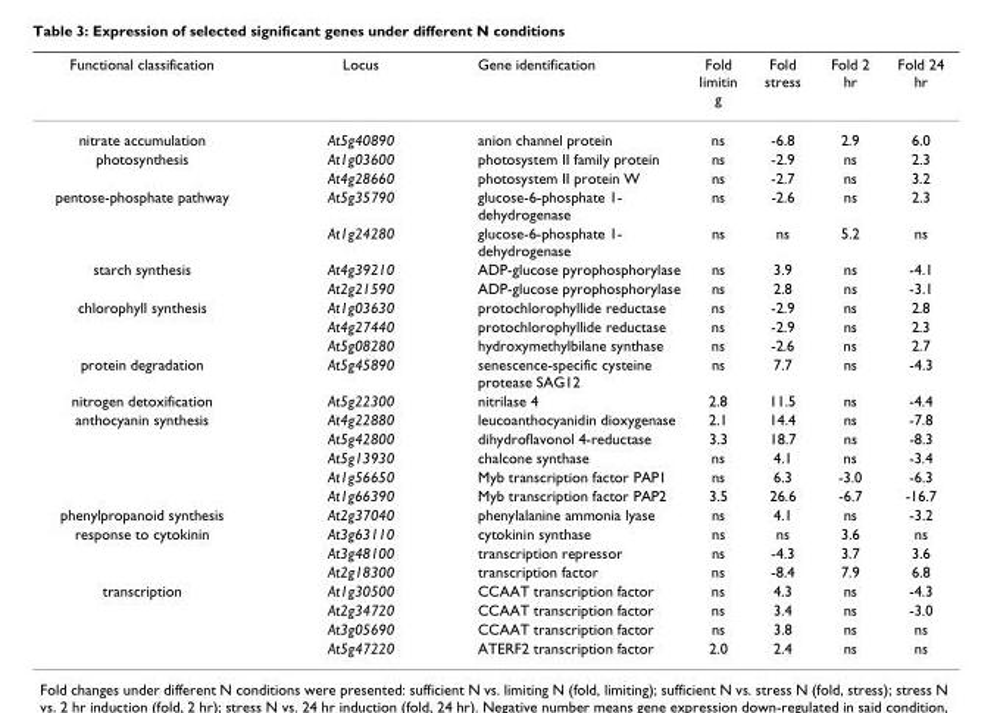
<table><thead><tr><td>Functional classification</td><td>Locus</td><td>Gene identification</td><td>Fold limitin g</td><td>Fold stress</td><td>Fold 2 hr</td><td>Fold 24 hr</td></tr></thead><tbody><tr><td>nitrate accumulation</td><td>At5g40890</td><td>anion channel protein</td><td>ns</td><td>-6.8</td><td>2.9</td><td>6.0</td></tr><tr><td rowspan="2">photosynthesis</td><td>At1g03600</td><td>photosystem II family protein</td><td>ns</td><td>-2.9</td><td>ns</td><td>2.3</td></tr><tr><td>At4g28660</td><td>photosystem II protein W</td><td>ns</td><td>-2.7</td><td>ns</td><td>3.2</td></tr><tr><td rowspan="2">pentose-phosphate pathway</td><td>At5g35790</td><td>glucose-6-phosphate 1- dehydrogenase</td><td>ns</td><td>-2.6</td><td>ns</td><td>2.3</td></tr><tr><td>At1g24280</td><td>glucose-6-phosphate 1- dehydrogenase</td><td>ns</td><td>ns</td><td>5.2</td><td>ns</td></tr><tr><td rowspan="2">starch synthesis</td><td>At4g39210</td><td>ADP-glucose pyrophosphorylase</td><td>ns</td><td>3.9</td><td>ns</td><td>-4.1</td></tr><tr><td>At2g21590</td><td>ADP-glucose pyrophosphorylase</td><td>ns</td><td>2.8</td><td>ns</td><td>-3.1</td></tr><tr><td rowspan="3">chlorophyll synthesis</td><td>At1g03630</td><td>protochlorophyllide reductase</td><td>ns</td><td>-2.9</td><td>ns</td><td>2.8</td></tr><tr><td>At4g27440</td><td>protochlorophyllide reductase</td><td>ns</td><td>-2.9</td><td>ns</td><td>2.3</td></tr><tr><td>At5g08280</td><td>hydroxymethylbilane synthase</td><td>ns</td><td>-2.6</td><td>ns</td><td>2.7</td></tr><tr><td>protein degradation</td><td>At5g45890</td><td>senescence-specific cysteine protease SAG12</td><td>ns</td><td>7.7</td><td>ns</td><td>-4.3</td></tr><tr><td>nitrogen detoxification</td><td>At5g22300</td><td>nitrilase 4</td><td>2.8</td><td>11.5</td><td>ns</td><td>-4.4</td></tr><tr><td rowspan="5">anthocyanin synthesis</td><td>At4g22880</td><td>leucoanthocyanidin dioxygenase</td><td>2.1</td><td>14.4</td><td>ns</td><td>-7.8</td></tr><tr><td>At5g42800</td><td>dihydroflavonol 4-reductase</td><td>3.3</td><td>18.7</td><td>ns</td><td>-8.3</td></tr><tr><td>At5g13930</td><td>chalcone synthase</td><td>ns</td><td>4.1</td><td>ns</td><td>-3.4</td></tr><tr><td>At1g56650</td><td>Myb transcription factor PAP1</td><td>ns</td><td>6.3</td><td>-3.0</td><td>-6.3</td></tr><tr><td>At1g66390</td><td>Myb transcription factor PAP2</td><td>3.5</td><td>26.6</td><td>-6.7</td><td>-16.7</td></tr><tr><td>phenylpropanoid synthesis</td><td>At2g37040</td><td>phenylalanine ammonia lyase</td><td>ns</td><td>4.1</td><td>ns</td><td>-3.2</td></tr><tr><td rowspan="3">response to cytokinin</td><td>At3g63110</td><td>cytokinin synthase</td><td>ns</td><td>ns</td><td>3.6</td><td>ns</td></tr><tr><td>At3g48100</td><td>transcription repressor</td><td>ns</td><td>-4.3</td><td>3.7</td><td>3.6</td></tr><tr><td>At2g18300</td><td>transcription factor</td><td>ns</td><td>-8.4</td><td>7.9</td><td>6.8</td></tr><tr><td rowspan="4">transcription</td><td>At1g30500</td><td>CCAAT transcription factor</td><td>ns</td><td>4.3</td><td>ns</td><td>-4.3</td></tr><tr><td>At2g34720</td><td>CCAAT transcription factor</td><td>ns</td><td>3.4</td><td>ns</td><td>-3.0</td></tr><tr><td>At3g05690</td><td>CCAAT transcription factor</td><td>ns</td><td>3.8</td><td>ns</td><td>ns</td></tr><tr><td>At5g47220</td><td>ATERF2 transcription factor</td><td>2.0</td><td>2.4</td><td>ns</td><td>ns</td></tr></tbody></table>